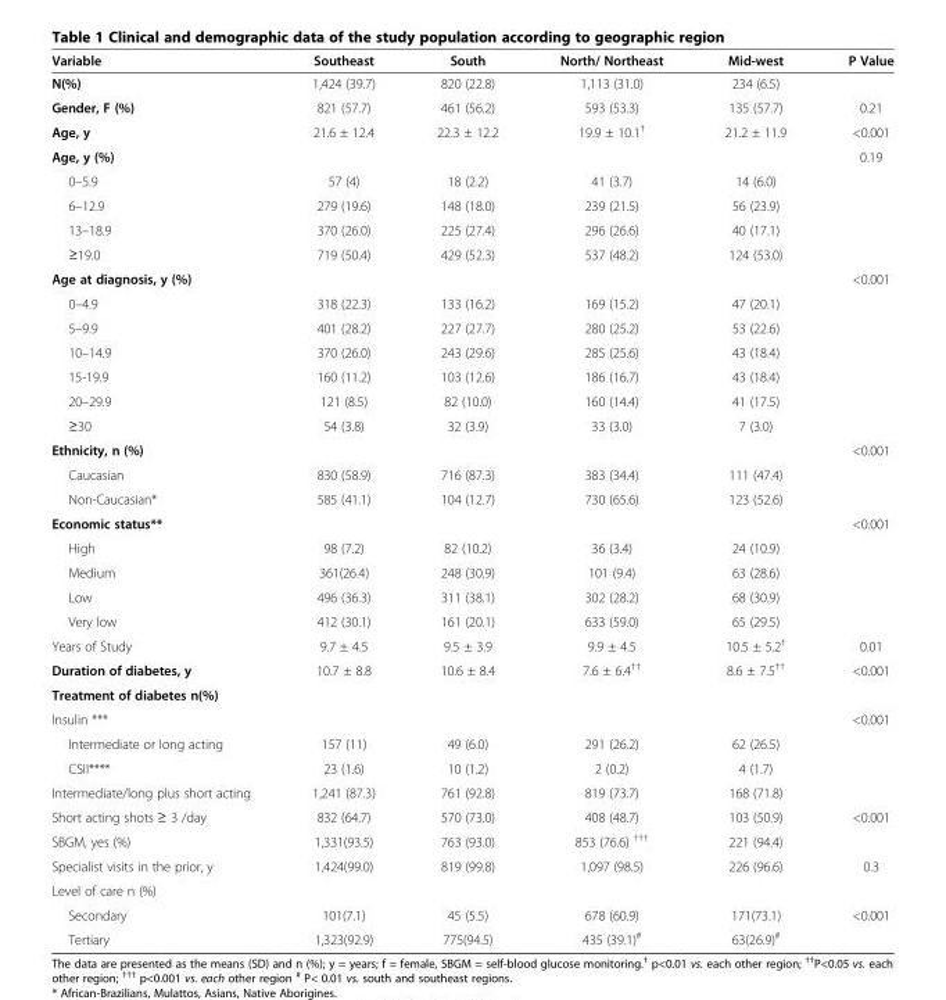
<table><thead><tr><td>Variable</td><td>Southeast</td><td>South</td><td>North/ Northeast</td><td>Mid-west</td><td>P Value</td></tr></thead><tbody><tr><td>N(%)</td><td>1,424 (39.7)</td><td>820 (22.8)</td><td>1,113 (31.0)</td><td>234 (6.5)</td><td></td></tr><tr><td>Gender, F (%)</td><td>821 (57.7)</td><td>461 (56.2)</td><td>593 (53.3)</td><td>135 (57.7)</td><td>0.21</td></tr><tr><td>Age, y</td><td>21.6 ± 12.4</td><td>22.3 ± 12.2</td><td>19.9 ± 10.1<sup>†</sup></td><td>21.2 ± 11.9</td><td>&lt;0.001</td></tr><tr><td>Age, y (%)</td><td></td><td></td><td></td><td></td><td>0.19</td></tr><tr><td>0–5.9</td><td>57 (4)</td><td>18 (2.2)</td><td>41 (3.7)</td><td>14 (6.0)</td><td></td></tr><tr><td>6–12.9</td><td>279 (19.6)</td><td>148 (18.0)</td><td>239 (21.5)</td><td>56 (23.9)</td><td></td></tr><tr><td>13–18.9</td><td>370 (26.0)</td><td>225 (27.4)</td><td>296 (26.6)</td><td>40 (17.1)</td><td></td></tr><tr><td>≥19.0</td><td>719 (50.4)</td><td>429 (52.3)</td><td>537 (48.2)</td><td>124 (53.0)</td><td></td></tr><tr><td>Age at diagnosis, y (%)</td><td></td><td></td><td></td><td></td><td>&lt;0.001</td></tr><tr><td>0–4.9</td><td>318 (22.3)</td><td>133 (16.2)</td><td>169 (15.2)</td><td>47 (20.1)</td><td></td></tr><tr><td>5–9.9</td><td>401 (28.2)</td><td>227 (27.7)</td><td>280 (25.2)</td><td>53 (22.6)</td><td></td></tr><tr><td>10–14.9</td><td>370 (26.0)</td><td>243 (29.6)</td><td>285 (25.6)</td><td>43 (18.4)</td><td></td></tr><tr><td>15-19.9</td><td>160 (11.2)</td><td>103 (12.6)</td><td>186 (16.7)</td><td>43 (18.4)</td><td rowspan="3"></td></tr><tr><td>20–29.9</td><td>121 (8.5)</td><td>82 (10.0)</td><td>160 (14.4)</td><td>41 (17.5)</td></tr><tr><td>≥30</td><td>54 (3.8)</td><td>32 (3.9)</td><td>33 (3.0)</td><td>7 (3.0)</td></tr><tr><td>Ethnicity, n (%)</td><td></td><td></td><td></td><td></td><td>&lt;0.001</td></tr><tr><td>Caucasian</td><td>830 (58.9)</td><td>716 (87.3)</td><td>383 (34.4)</td><td>111 (47.4)</td><td></td></tr><tr><td>Non-Caucasian*</td><td>585 (41.1)</td><td>104 (12.7)</td><td>730 (65.6)</td><td>123 (52.6)</td><td></td></tr><tr><td>Economic status**</td><td></td><td></td><td></td><td></td><td>&lt;0.001</td></tr><tr><td>High</td><td>98 (7.2)</td><td>82 (10.2)</td><td>36 (3.4)</td><td>24 (10.9)</td><td></td></tr><tr><td>Medium</td><td>361(26.4)</td><td>248 (30.9)</td><td>101 (9.4)</td><td>63 (28.6)</td><td></td></tr><tr><td>Low</td><td>496 (36.3)</td><td>311 (38.1)</td><td>302 (28.2)</td><td>68 (30.9)</td><td></td></tr><tr><td>Very low</td><td>412 (30.1)</td><td>161 (20.1)</td><td>633 (59.0)</td><td>65 (29.5)</td><td></td></tr><tr><td>Years of Study</td><td>9.7 ± 4.5</td><td>9.5 ± 3.9</td><td>9.9 ± 4.5</td><td>10.5 ± 5.2<sup>†</sup></td><td>0.01</td></tr><tr><td>Duration of diabetes, y</td><td>10.7 ± 8.8</td><td>10.6 ± 8.4</td><td>7.6 ± 6.4<sup>††</sup></td><td>8.6 ± 7.5<sup>††</sup></td><td>&lt;0.001</td></tr><tr><td colspan="6">Treatment of diabetes n(%)</td></tr><tr><td>Insulin ***</td><td></td><td></td><td></td><td></td><td>&lt;0.001</td></tr><tr><td>Intermediate or long acting</td><td>157 (11)</td><td>49 (6.0)</td><td>291 (26.2)</td><td>62 (26.5)</td><td></td></tr><tr><td>CSII****</td><td>23 (1.6)</td><td>10 (1.2)</td><td>2 (0.2)</td><td>4 (1.7)</td><td></td></tr><tr><td>Intermediate/long plus short acting</td><td>1,241 (87.3)</td><td>761 (92.8)</td><td>819 (73.7)</td><td>168 (71.8)</td><td></td></tr><tr><td>Short acting shots ≥ 3 /day</td><td>832 (64.7)</td><td>570 (73.0)</td><td>408 (48.7)</td><td>103 (50.9)</td><td>&lt;0.001</td></tr><tr><td>SBGM, yes (%)</td><td>1,331(93.5)</td><td>763 (93.0)</td><td>853 (76.6) <sup>†††</sup></td><td>221 (94.4)</td><td></td></tr><tr><td>Specialist visits in the prior, y</td><td>1,424(99.0)</td><td>819 (99.8)</td><td>1,097 (98.5)</td><td>226 (96.6)</td><td>0.3</td></tr><tr><td colspan="6">Level of care n (%)</td></tr><tr><td>Secondary</td><td>101(7.1)</td><td>45 (5.5)</td><td>678 (60.9)</td><td>171(73.1)</td><td>&lt;0.001</td></tr><tr><td>Tertiary</td><td>1,323(92.9)</td><td>775(94.5)</td><td>435 (39.1)<sup>#</sup></td><td>63(26.9)<sup>#</sup></td><td></td></tr></tbody></table>